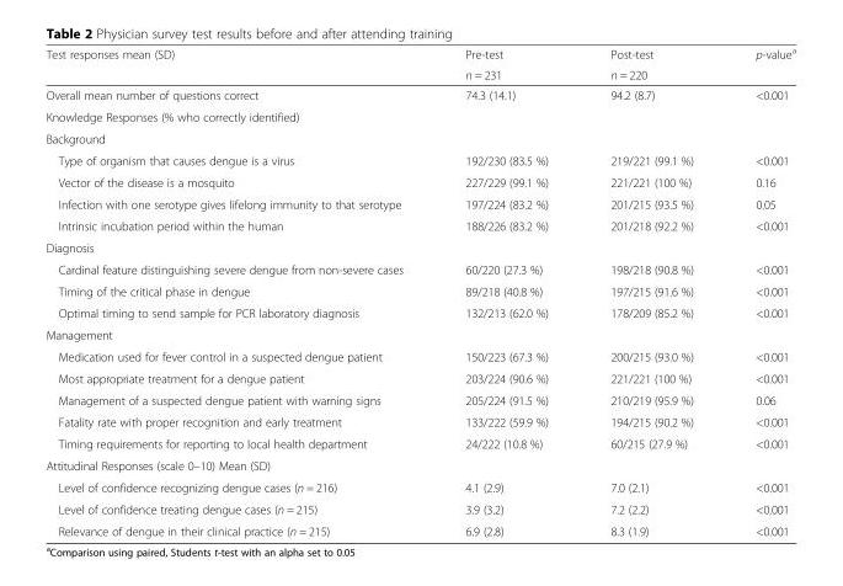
<table><thead><tr><td rowspan="2">Test responses mean (SD)</td><td rowspan="2">Pre-test n = 231</td><td rowspan="2">Post-test n = 220</td><td rowspan="2">p-value<sup>a</sup></td></tr><tr></tr></thead><tbody><tr><td>Overall mean number of questions correct</td><td>74.3 (14.1)</td><td>94.2 (8.7)</td><td>&lt;0.001</td></tr><tr><td colspan="4">Knowledge Responses (% who correctly identified)</td></tr><tr><td colspan="4">Background</td></tr><tr><td>Type of organism that causes dengue is a virus</td><td>192/230 (83.5 %)</td><td>219/221 (99.1 %)</td><td>&lt;0.001</td></tr><tr><td>Vector of the disease is a mosquito</td><td>227/229 (99.1 %)</td><td>221/221 (100 %)</td><td>0.16</td></tr><tr><td>Infection with one serotype gives lifelong immunity to that serotype</td><td>197/224 (83.2 %)</td><td>201/215 (93.5 %)</td><td>0.05</td></tr><tr><td>Intrinsic incubation period within the human</td><td>188/226 (83.2 %)</td><td>201/218 (92.2 %)</td><td>&lt;0.001</td></tr><tr><td colspan="4">Diagnosis</td></tr><tr><td>Cardinal feature distinguishing severe dengue from non-severe cases</td><td>60/220 (27.3 %)</td><td>198/218 (90.8 %)</td><td>&lt;0.001</td></tr><tr><td>Timing of the critical phase in dengue</td><td>89/218 (40.8 %)</td><td>197/215 (91.6 %)</td><td>&lt;0.001</td></tr><tr><td>Optimal timing to send sample for PCR laboratory diagnosis</td><td>132/213 (62.0 %)</td><td>178/209 (85.2 %)</td><td>&lt;0.001</td></tr><tr><td colspan="4">Management</td></tr><tr><td>Medication used for fever control in a suspected dengue patient</td><td>150/223 (67.3 %)</td><td>200/215 (93.0 %)</td><td>&lt;0.001</td></tr><tr><td>Most appropriate treatment for a dengue patient</td><td>203/224 (90.6 %)</td><td>221/221 (100 %)</td><td>&lt;0.001</td></tr><tr><td>Management of a suspected dengue patient with warning signs</td><td>205/224 (91.5 %)</td><td>210/219 (95.9 %)</td><td>0.06</td></tr><tr><td>Fatality rate with proper recognition and early treatment</td><td>133/222 (59.9 %)</td><td>194/215 (90.2 %)</td><td>&lt;0.001</td></tr><tr><td>Timing requirements for reporting to local health department</td><td>24/222 (10.8 %)</td><td>60/215 (27.9 %)</td><td>&lt;0.001</td></tr><tr><td colspan="4">Attitudinal Responses (scale 0–10) Mean (SD)</td></tr><tr><td>Level of confidence recognizing dengue cases (n = 216)</td><td>4.1 (2.9)</td><td>7.0 (2.1)</td><td>&lt;0.001</td></tr><tr><td>Level of confidence treating dengue cases (n = 215)</td><td>3.9 (3.2)</td><td>7.2 (2.2)</td><td>&lt;0.001</td></tr><tr><td>Relevance of dengue in their clinical practice (n = 215)</td><td>6.9 (2.8)</td><td>8.3 (1.9)</td><td>&lt;0.001</td></tr></tbody></table>